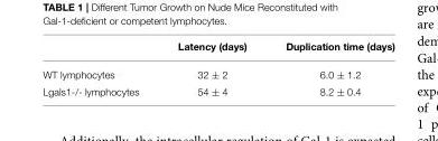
<table><thead><tr><td></td><td>Latency (days)</td><td>Duplication time (days)</td></tr></thead><tbody><tr><td>WT lymphocytes</td><td>32 ± 2</td><td>6.0 ± 1.2</td></tr><tr><td>Lgals1-/- lymphocytes</td><td>54 ± 4</td><td>8.2 ± 0.4</td></tr></tbody></table>